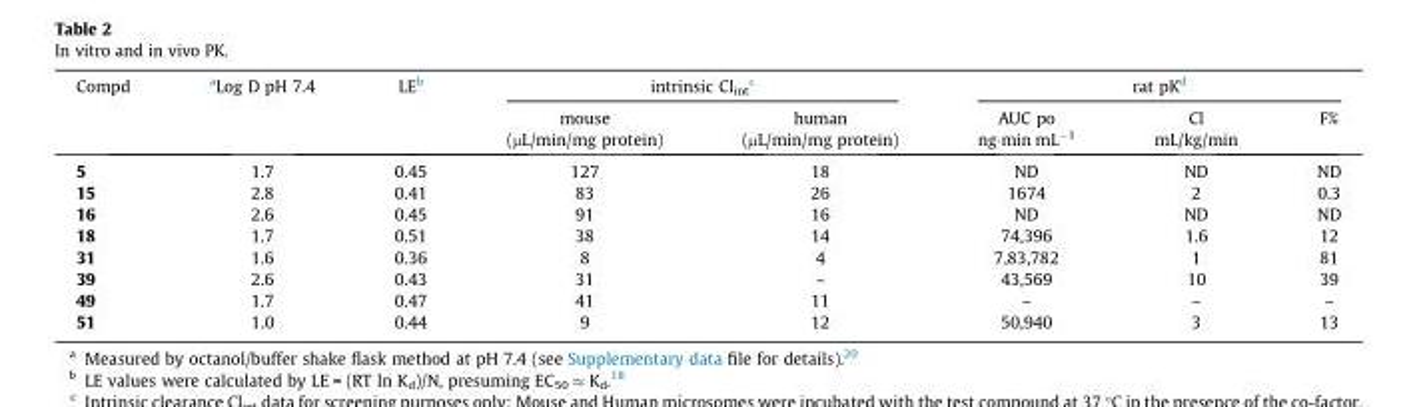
<table><thead><tr><td rowspan="2">Compd</td><td rowspan="2">aLog D pH 7.4</td><td rowspan="2">LE<sup>b</sup></td><td colspan="2">intrinsic Cl<sub>int</sub> <sup>c</sup></td><td colspan="3">rat pK<sup>d</sup></td></tr><tr><td>mouse (µL/min/mg protein)</td><td>human (µL/min/mg protein)</td><td>AUC po ng·min mL<sup>−1</sup></td><td>Cl mL/kg/min</td><td>F%</td></tr></thead><tbody><tr><td>5</td><td>1.7</td><td>0.45</td><td>127</td><td>18</td><td>ND</td><td>ND</td><td>ND</td></tr><tr><td>15</td><td>2.8</td><td>0.41</td><td>83</td><td>26</td><td>1674</td><td>2</td><td>0.3</td></tr><tr><td>16</td><td>2.6</td><td>0.45</td><td>91</td><td>16</td><td>ND</td><td>ND</td><td>ND</td></tr><tr><td>18</td><td>1.7</td><td>0.51</td><td>38</td><td>14</td><td>74,396</td><td>1.6</td><td>12</td></tr><tr><td>31</td><td>1.6</td><td>0.36</td><td>8</td><td>4</td><td>7,83,782</td><td>1</td><td>81</td></tr><tr><td>39</td><td>2.6</td><td>0.43</td><td>31</td><td>–</td><td>43,569</td><td>10</td><td>39</td></tr><tr><td>49</td><td>1.7</td><td>0.47</td><td>41</td><td>11</td><td>–</td><td>–</td><td>–</td></tr><tr><td>51</td><td>1.0</td><td>0.44</td><td>9</td><td>12</td><td>50,940</td><td>3</td><td>13</td></tr></tbody></table>